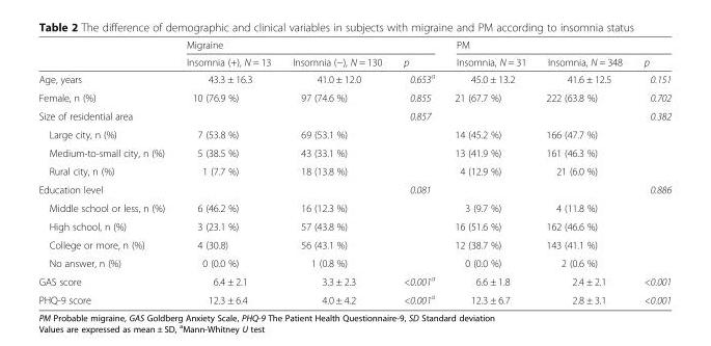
<table><thead><tr><td rowspan="2"></td><td colspan="3">Migraine</td><td colspan="3">PM</td></tr><tr><td>Insomnia (+), N = 13</td><td>Insomnia (−), N = 130</td><td>p</td><td>Insomnia, N = 31</td><td>Insomnia, N = 348</td><td>p</td></tr></thead><tbody><tr><td>Age, years</td><td>43.3 ± 16.3</td><td>41.0 ± 12.0</td><td>0.653<sup>a</sup></td><td>45.0 ± 13.2</td><td>41.6 ± 12.5</td><td>0.151</td></tr><tr><td>Female, n (%)</td><td>10 (76.9 %)</td><td>97 (74.6 %)</td><td>0.855</td><td>21 (67.7 %)</td><td>222 (63.8 %)</td><td>0.702</td></tr><tr><td>Size of residential area</td><td></td><td></td><td>0.857</td><td></td><td></td><td>0.382</td></tr><tr><td>Large city, n (%)</td><td>7 (53.8 %)</td><td>69 (53.1 %)</td><td></td><td>14 (45.2 %)</td><td>166 (47.7 %)</td><td></td></tr><tr><td>Medium-to-small city, n (%)</td><td>5 (38.5 %)</td><td>43 (33.1 %)</td><td></td><td>13 (41.9 %)</td><td>161 (46.3 %)</td><td></td></tr><tr><td>Rural city, n (%)</td><td>1 (7.7 %)</td><td>18 (13.8 %)</td><td></td><td>4 (12.9 %)</td><td>21 (6.0 %)</td><td></td></tr><tr><td>Education level</td><td></td><td></td><td>0.081</td><td></td><td></td><td>0.886</td></tr><tr><td>Middle school or less, n (%)</td><td>6 (46.2 %)</td><td>16 (12.3 %)</td><td></td><td>3 (9.7 %)</td><td>4 (11.8 %)</td><td></td></tr><tr><td>High school, n (%)</td><td>3 (23.1 %)</td><td>57 (43.8 %)</td><td></td><td>16 (51.6 %)</td><td>162 (46.6 %)</td><td></td></tr><tr><td>College or more, n (%)</td><td>4 (30.8)</td><td>56 (43.1 %)</td><td></td><td>12 (38.7 %)</td><td>143 (41.1 %)</td><td></td></tr><tr><td>No answer, n (%)</td><td>0 (0.0 %)</td><td>1 (0.8 %)</td><td></td><td>0 (0.0 %)</td><td>2 (0.6 %)</td><td></td></tr><tr><td>GAS score</td><td>6.4 ± 2.1</td><td>3.3 ± 2.3</td><td>&lt;0.001<sup>a</sup></td><td>6.6 ± 1.8</td><td>2.4 ± 2.1</td><td>&lt;0.001</td></tr><tr><td>PHQ-9 score</td><td>12.3 ± 6.4</td><td>4.0 ± 4.2</td><td>&lt;0.001<sup>a</sup></td><td>12.3 ± 6.7</td><td>2.8 ± 3.1</td><td>&lt;0.001</td></tr></tbody></table>